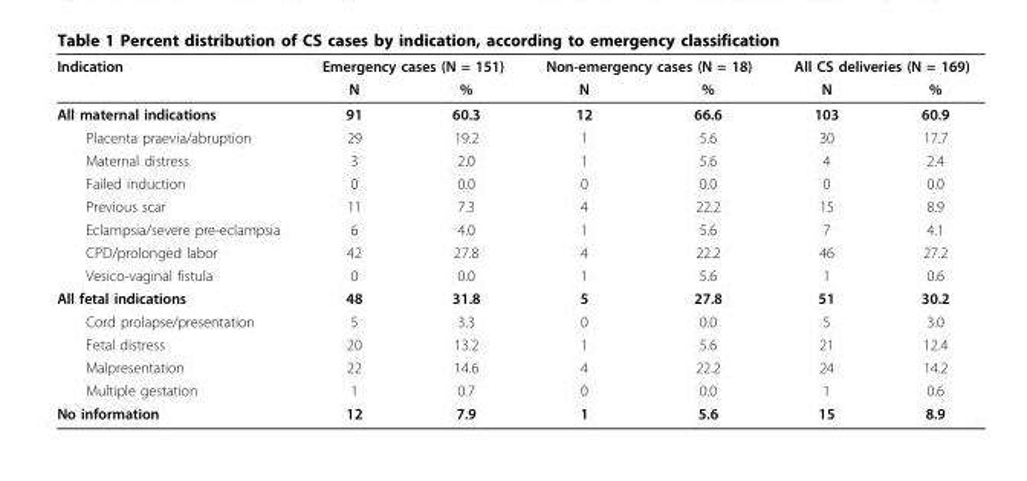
<table><thead><tr><td rowspan="2">Indication</td><td colspan="2">Emergency cases (N = 151)</td><td colspan="2">Non-emergency cases (N = 18)</td><td colspan="2">All CS deliveries (N = 169)</td></tr><tr><td>N</td><td>%</td><td>N</td><td>%</td><td>N</td><td>%</td></tr></thead><tbody><tr><td>All maternal indications</td><td>91</td><td>60.3</td><td>12</td><td>66.6</td><td>103</td><td>60.9</td></tr><tr><td>Placenta praevia/abruption</td><td>29</td><td>19.2</td><td>1</td><td>5.6</td><td>30</td><td>17.7</td></tr><tr><td>Maternal distress</td><td>3</td><td>2.0</td><td>1</td><td>5.6</td><td>4</td><td>2.4</td></tr><tr><td>Failed induction</td><td>0</td><td>0.0</td><td>0</td><td>0.0</td><td>0</td><td>0.0</td></tr><tr><td>Previous scar</td><td>11</td><td>7.3</td><td>4</td><td>22.2</td><td>15</td><td>8.9</td></tr><tr><td>Eclampsia/severe pre-eclampsia</td><td>6</td><td>4.0</td><td>1</td><td>5.6</td><td>7</td><td>4.1</td></tr><tr><td>CPD/prolonged labor</td><td>42</td><td>27.8</td><td>4</td><td>22.2</td><td>46</td><td>27.2</td></tr><tr><td>Vesico-vaginal fistula</td><td>0</td><td>0.0</td><td>1</td><td>5.6</td><td>1</td><td>0.6</td></tr><tr><td>All fetal indications</td><td>48</td><td>31.8</td><td>5</td><td>27.8</td><td>51</td><td>30.2</td></tr><tr><td>Cord prolapse/presentation</td><td>5</td><td>3.3</td><td>0</td><td>0.0</td><td>5</td><td>3.0</td></tr><tr><td>Fetal distress</td><td>20</td><td>13.2</td><td>1</td><td>5.6</td><td>21</td><td>12.4</td></tr><tr><td>Malpresentation</td><td>22</td><td>14.6</td><td>4</td><td>22.2</td><td>24</td><td>14.2</td></tr><tr><td>Multiple gestation</td><td>1</td><td>0.7</td><td>0</td><td>0.0</td><td>1</td><td>0.6</td></tr><tr><td>No information</td><td>12</td><td>7.9</td><td>1</td><td>5.6</td><td>15</td><td>8.9</td></tr></tbody></table>